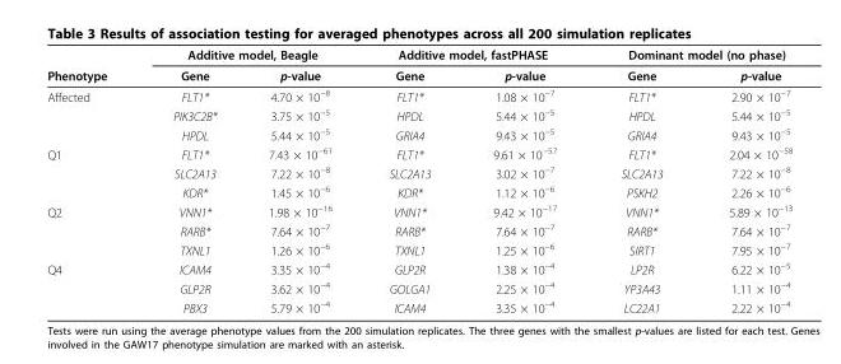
<table><thead><tr><td rowspan="2">Phenotype</td><td colspan="2">Additive model, Beagle</td><td colspan="2">Additive model, fastPHASE</td><td colspan="2">Dominant model (no phase)</td></tr><tr><td>Gene</td><td>p-value</td><td>Gene</td><td>p-value</td><td>Gene</td><td>p-value</td></tr></thead><tbody><tr><td rowspan="3">Affected</td><td>FLT1*</td><td>4.70 × 10<sup>−8</sup></td><td>FLT1*</td><td>1.08 × 10<sup>−7</sup></td><td>FLT1*</td><td>2.90 × 10<sup>−7</sup></td></tr><tr><td>PIK3C2B*</td><td>3.75 × 10<sup>−5</sup></td><td>HPDL</td><td>5.44 × 10<sup>−5</sup></td><td>HPDL</td><td>5.44 × 10<sup>−5</sup></td></tr><tr><td>HPDL</td><td>5.44 × 10<sup>−5</sup></td><td>GRIA4</td><td>9.43 × 10<sup>−5</sup></td><td>GRIA4</td><td>9.43 × 10<sup>−5</sup></td></tr><tr><td rowspan="3">Q1</td><td>FLT1*</td><td>7.43 × 10<sup>−61</sup></td><td>FLT1*</td><td>9.61 × 10<sup>−57</sup></td><td>FLT1*</td><td>2.04 × 10<sup>−58</sup></td></tr><tr><td>SLC2A13</td><td>7.22 × 10<sup>−8</sup></td><td>SLC2A13</td><td>3.02 × 10<sup>−7</sup></td><td>SLC2A13</td><td>7.22 × 10<sup>−8</sup></td></tr><tr><td>KDR*</td><td>1.45 × 10<sup>−6</sup></td><td>KDR*</td><td>1.12 × 10<sup>−6</sup></td><td>PSKH2</td><td>2.26 × 10<sup>−6</sup></td></tr><tr><td rowspan="3">Q2</td><td>VNN1*</td><td>1.98 × 10<sup>−16</sup></td><td>VNN1*</td><td>9.42 × 10<sup>−17</sup></td><td>VNN1*</td><td>5.89 × 10<sup>−13</sup></td></tr><tr><td>RARB*</td><td>7.64 × 10<sup>−7</sup></td><td>RARB*</td><td>7.64 × 10<sup>−7</sup></td><td>RARB*</td><td>7.64 × 10<sup>−7</sup></td></tr><tr><td>TXNL1</td><td>1.26 × 10<sup>−6</sup></td><td>TXNL1</td><td>1.25 × 10<sup>−6</sup></td><td>SIRT1</td><td>7.95 × 10<sup>−7</sup></td></tr><tr><td rowspan="3">Q4</td><td>ICAM4</td><td>3.35 × 10<sup>−4</sup></td><td>GLP2R</td><td>1.38 × 10<sup>−4</sup></td><td>LP2R</td><td>6.22 × 10<sup>−5</sup></td></tr><tr><td>GLP2R</td><td>3.62 × 10<sup>−4</sup></td><td>GOLGA1</td><td>2.25 × 10<sup>−4</sup></td><td>YP3A43</td><td>1.11 × 10<sup>−4</sup></td></tr><tr><td>PBX3</td><td>5.79 × 10<sup>−4</sup></td><td>ICAM4</td><td>3.35 × 10<sup>−4</sup></td><td>LC22A1</td><td>2.22 × 10<sup>−4</sup></td></tr></tbody></table>